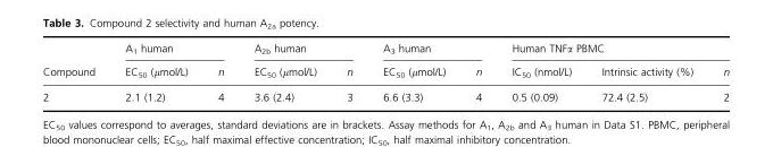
<table><thead><tr><td rowspan="2">Compound</td><td colspan="2">A<sub>1</sub> human</td><td colspan="2">A<sub>2b</sub> human</td><td colspan="2">A<sub>3</sub> human</td><td colspan="3">Human TNFα PBMC</td></tr><tr><td>EC<sub>50</sub> (μmol/L)</td><td>n</td><td>EC<sub>50</sub> (μmol/L)</td><td>n</td><td>EC<sub>50</sub> (μmol/L)</td><td>n</td><td>IC<sub>50</sub> (nmol/L)</td><td>Intrinsic activity (%)</td><td>n</td></tr></thead><tbody><tr><td>2</td><td>2.1 (1.2)</td><td>4</td><td>3.6 (2.4)</td><td>3</td><td>6.6 (3.3)</td><td>4</td><td>0.5 (0.09)</td><td>72.4 (2.5)</td><td>2</td></tr></tbody></table>